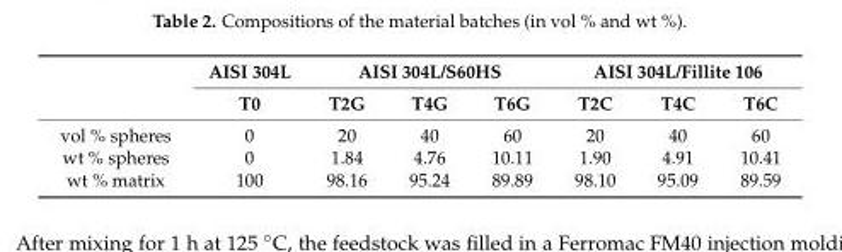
<table><thead><tr><td rowspan="2"></td><td rowspan="2">AISI 304L T0</td><td colspan="3">AISI 304L/S60HS</td><td colspan="3">AISI 304L/Fillite 106</td></tr><tr><td>T2G</td><td>T4G</td><td>T6G</td><td>T2C</td><td>T4C</td><td>T6C</td></tr></thead><tbody><tr><td>vol % spheres</td><td>0</td><td>20</td><td>40</td><td>60</td><td>20</td><td>40</td><td>60</td></tr><tr><td>wt % spheres</td><td>0</td><td>1.84</td><td>4.76</td><td>10.11</td><td>1.90</td><td>4.91</td><td>10.41</td></tr><tr><td>wt % matrix</td><td>100</td><td>98.16</td><td>95.24</td><td>89.89</td><td>98.10</td><td>95.09</td><td>89.59</td></tr></tbody></table>